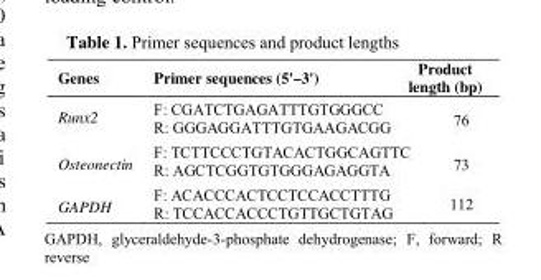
<table><thead><tr><td rowspan="4">Genes Runx2 Osteonectin GAPDH</td><td>Primer sequences (5&#x27;–3&#x27;)</td><td colspan="2">Product length (bp)</td></tr><tr><td rowspan="3" colspan="2">F: CGATCTGAGATTTGTGGGCC R: GGGAGGATTTGTGAAGACGG F: TCTTCCCTGTACACTGGCAGTTC R: AGCTCGGTGTGGGAGAGGTA F: ACACCCACTCCTCCACCTTTG R: TCCACCACCCTGTTGCTGTAG</td><td rowspan="3">76 73 112</td></tr><tr></tr><tr></tr></thead><tbody></tbody></table>